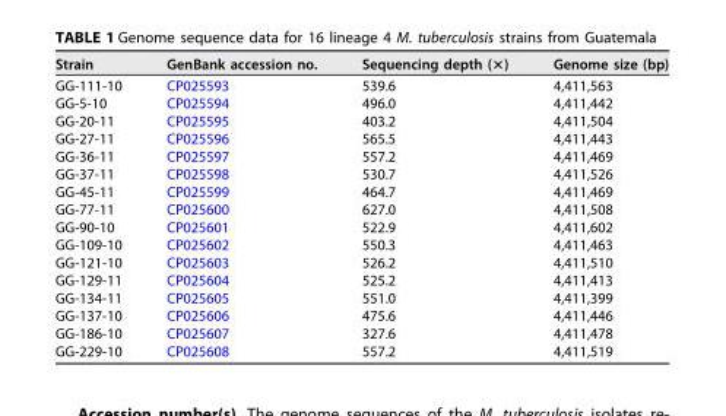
<table><thead><tr><td>Strain</td><td>GenBank accession no.</td><td>Sequencing depth (×)</td><td>Genome size (bp)</td></tr></thead><tbody><tr><td>GG-111-10</td><td>CP025593</td><td>539.6</td><td>4,411,563</td></tr><tr><td>GG-5-10</td><td>CP025594</td><td>496.0</td><td>4,411,442</td></tr><tr><td>GG-20-11</td><td>CP025595</td><td>403.2</td><td>4,411,504</td></tr><tr><td>GG-27-11</td><td>CP025596</td><td>565.5</td><td>4,411,443</td></tr><tr><td>GG-36-11</td><td>CP025597</td><td>557.2</td><td>4,411,469</td></tr><tr><td>GG-37-11</td><td>CP025598</td><td>530.7</td><td>4,411,526</td></tr><tr><td>GG-45-11</td><td>CP025599</td><td>464.7</td><td>4,411,469</td></tr><tr><td>GG-77-11</td><td>CP025600</td><td>627.0</td><td>4,411,508</td></tr><tr><td>GG-90-10</td><td>CP025601</td><td>522.9</td><td>4,411,602</td></tr><tr><td>GG-109-10</td><td>CP025602</td><td>550.3</td><td>4,411,463</td></tr><tr><td>GG-121-10</td><td>CP025603</td><td>526.2</td><td>4,411,510</td></tr><tr><td>GG-129-11</td><td>CP025604</td><td>525.2</td><td>4,411,413</td></tr><tr><td>GG-134-11</td><td>CP025605</td><td>551.0</td><td>4,411,399</td></tr><tr><td>GG-137-10</td><td>CP025606</td><td>475.6</td><td>4,411,446</td></tr><tr><td>GG-186-10</td><td>CP025607</td><td>327.6</td><td>4,411,478</td></tr><tr><td>GG-229-10</td><td>CP025608</td><td>557.2</td><td>4,411,519</td></tr></tbody></table>